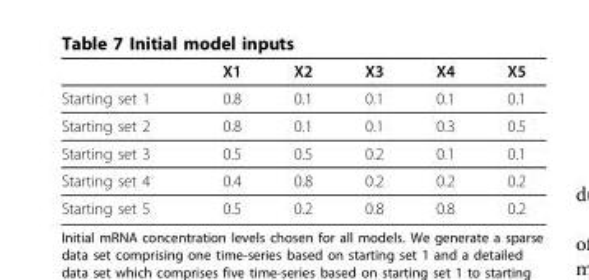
<table><thead><tr><td></td><td>X1</td><td>X2</td><td>X3</td><td>X4</td><td>X5</td></tr></thead><tbody><tr><td>Starting set 1</td><td>0.8</td><td>0.1</td><td>0.1</td><td>0.1</td><td>0.1</td></tr><tr><td>Starting set 2</td><td>0.8</td><td>0.1</td><td>0.1</td><td>0.3</td><td>0.5</td></tr><tr><td>Starting set 3</td><td>0.5</td><td>0.5</td><td>0.2</td><td>0.1</td><td>0.1</td></tr><tr><td>Starting set 4</td><td>0.4</td><td>0.8</td><td>0.2</td><td>0.2</td><td>0.2</td></tr><tr><td>Starting set 5</td><td>0.5</td><td>0.2</td><td>0.8</td><td>0.8</td><td>0.2</td></tr></tbody></table>